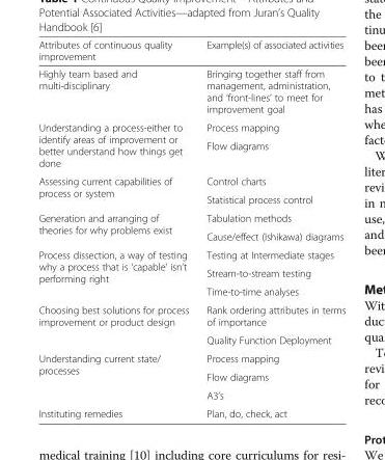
<table><thead><tr><td>Attributes of continuous quality improvement</td><td>Example(s) of associated activities</td></tr></thead><tbody><tr><td>Highly team based and multi-disciplinary</td><td>Bringing together staff from management, administration, and ‘front-lines’ to meet for improvement goal</td></tr><tr><td rowspan="2">Understanding a process-either to identify areas of improvement or better understand how things get done</td><td>Process mapping</td></tr><tr><td>Flow diagrams</td></tr><tr><td rowspan="2">Assessing current capabilities of process or system</td><td>Control charts</td></tr><tr><td>Statistical process control</td></tr><tr><td rowspan="2">Generation and arranging of theories for why problems exist</td><td>Tabulation methods</td></tr><tr><td>Cause/effect (Ishikawa) diagrams</td></tr><tr><td rowspan="3">Process dissection, a way of testing why a process that is ‘capable’ isn’t performing right</td><td>Testing at Intermediate stages</td></tr><tr><td>Stream-to-stream testing</td></tr><tr><td>Time-to-time analyses</td></tr><tr><td rowspan="2">Choosing best solutions for process improvement or product design</td><td>Rank ordering attributes in terms of importance</td></tr><tr><td>Quality Function Deployment</td></tr><tr><td rowspan="3">Understanding current state/ processes</td><td>Process mapping</td></tr><tr><td>Flow diagrams</td></tr><tr><td>A3’s</td></tr><tr><td>Instituting remedies</td><td>Plan, do, check, act</td></tr></tbody></table>